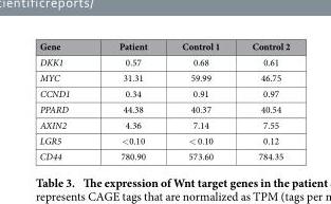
<table><thead><tr><td>Gene</td><td>Patient</td><td>Control 1</td><td>Control 2</td></tr></thead><tbody><tr><td>DKK1</td><td>0.57</td><td>0.68</td><td>0.61</td></tr><tr><td>MYC</td><td>31.31</td><td>59.99</td><td>46.75</td></tr><tr><td>CCND1</td><td>0.34</td><td>0.91</td><td>0.97</td></tr><tr><td>PPARD</td><td>44.38</td><td>40.37</td><td>40.54</td></tr><tr><td>AXIN2</td><td>4.36</td><td>7.14</td><td>7.55</td></tr><tr><td>LGR5</td><td>&lt; 0.10</td><td>&lt; 0.10</td><td>0.12</td></tr><tr><td>CD44</td><td>780.90</td><td>573.60</td><td>784.35</td></tr></tbody></table>